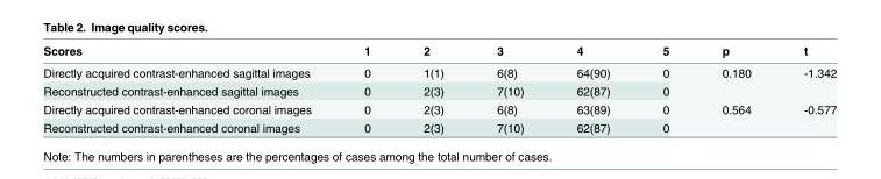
<table><thead><tr><td>Scores</td><td>1</td><td>2</td><td>3</td><td>4</td><td>5</td><td>p</td><td>t</td></tr></thead><tbody><tr><td>Directly acquired contrast-enhanced sagittal images</td><td>0</td><td>1(1)</td><td>6(8)</td><td>64(90)</td><td>0</td><td rowspan="2">0.180</td><td rowspan="2">-1.342</td></tr><tr><td>Reconstructed contrast-enhanced sagittal images</td><td>0</td><td>2(3)</td><td>7(10)</td><td>62(87)</td><td>0</td></tr><tr><td>Directly acquired contrast-enhanced coronal images</td><td>0</td><td>2(3)</td><td>6(8)</td><td>63(89)</td><td>0</td><td rowspan="2">0.564</td><td rowspan="2">-0.577</td></tr><tr><td>Reconstructed contrast-enhanced coronal images</td><td>0</td><td>2(3)</td><td>7(10)</td><td>62(87)</td><td>0</td></tr></tbody></table>